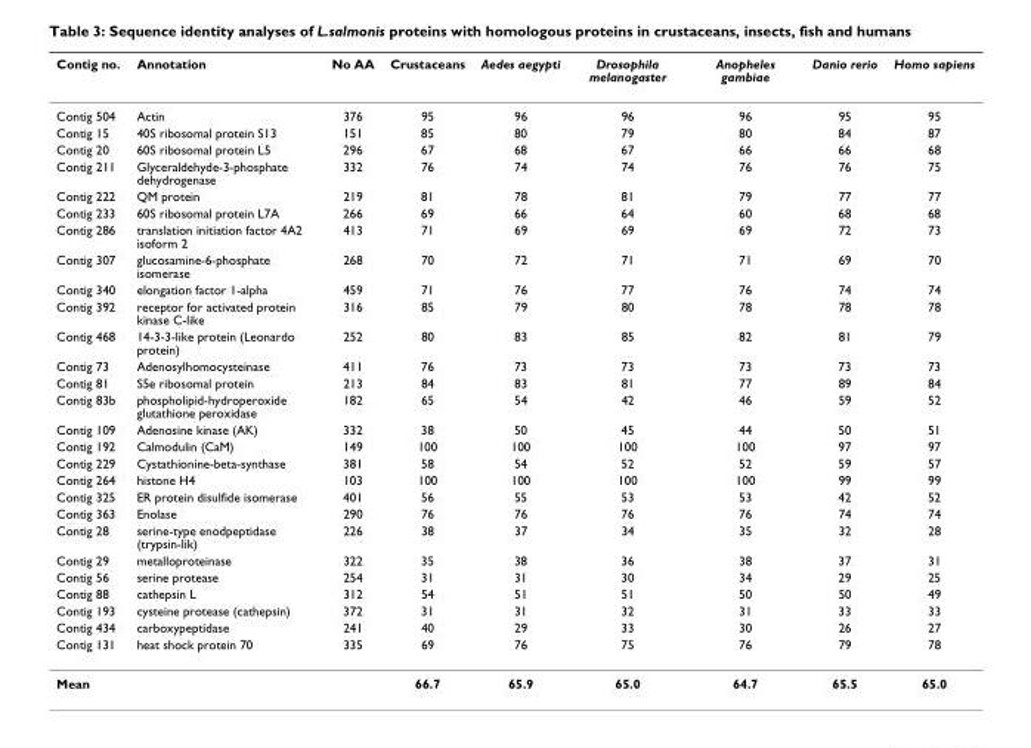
<table><thead><tr><td>Contig no.</td><td>Annotation</td><td>No AA</td><td>Crustaceans</td><td>Aedes aegypti</td><td>Drosophila melanogaster</td><td>Anopheles gambiae</td><td>Danio rerio</td><td>Homo sapiens</td></tr></thead><tbody><tr><td>Contig 504</td><td>Actin</td><td>376</td><td>95</td><td>96</td><td>96</td><td>96</td><td>95</td><td>95</td></tr><tr><td>Contig 15</td><td>40S ribosomal protein S13</td><td>151</td><td>85</td><td>80</td><td>79</td><td>80</td><td>84</td><td>87</td></tr><tr><td>Contig 20</td><td>60S ribosomal protein L5</td><td>296</td><td>67</td><td>68</td><td>67</td><td>66</td><td>66</td><td>68</td></tr><tr><td>Contig 211</td><td>Glyceraldehyde-3-phosphate dehydrogenase</td><td>332</td><td>76</td><td>74</td><td>74</td><td>76</td><td>76</td><td>75</td></tr><tr><td>Contig 222</td><td>QM protein</td><td>219</td><td>81</td><td>78</td><td>81</td><td>79</td><td>77</td><td>77</td></tr><tr><td>Contig 233</td><td>60S ribosomal protein L7A</td><td>266</td><td>69</td><td>66</td><td>64</td><td>60</td><td>68</td><td>68</td></tr><tr><td>Contig 286</td><td>translation initiation factor 4A2 isoform 2</td><td>413</td><td>71</td><td>69</td><td>69</td><td>69</td><td>72</td><td>73</td></tr><tr><td>Contig 307</td><td>glucosamine-6-phosphate isomerase</td><td>268</td><td>70</td><td>72</td><td>71</td><td>71</td><td>69</td><td>70</td></tr><tr><td>Contig 340</td><td>elongation factor 1-alpha</td><td>459</td><td>71</td><td>76</td><td>77</td><td>76</td><td>74</td><td>74</td></tr><tr><td>Contig 392</td><td>receptor for activated protein kinase C-like</td><td>316</td><td>85</td><td>79</td><td>80</td><td>78</td><td>78</td><td>78</td></tr><tr><td>Contig 468</td><td>14-3-3-like protein (Leonardo protein)</td><td>252</td><td>80</td><td>83</td><td>85</td><td>82</td><td>81</td><td>79</td></tr><tr><td>Contig 73</td><td>Adenosylhomocysteinase</td><td>411</td><td>76</td><td>73</td><td>73</td><td>73</td><td>73</td><td>73</td></tr><tr><td>Contig 81</td><td>S5e ribosomal protein</td><td>213</td><td>84</td><td>83</td><td>81</td><td>77</td><td>89</td><td>84</td></tr><tr><td>Contig 83b</td><td>phospholipid-hydroperoxide glutathione peroxidase</td><td>182</td><td>65</td><td>54</td><td>42</td><td>46</td><td>59</td><td>52</td></tr><tr><td>Contig 109</td><td>Adenosine kinase (AK)</td><td>332</td><td>38</td><td>50</td><td>45</td><td>44</td><td>50</td><td>51</td></tr><tr><td>Contig 192</td><td>Calmodulin (CaM)</td><td>149</td><td>100</td><td>100</td><td>100</td><td>100</td><td>97</td><td>97</td></tr><tr><td>Contig 229</td><td>Cystathionine-beta-synthase</td><td>381</td><td>58</td><td>54</td><td>52</td><td>52</td><td>59</td><td>57</td></tr><tr><td>Contig 264</td><td>histone H4</td><td>103</td><td>100</td><td>100</td><td>100</td><td>100</td><td>99</td><td>99</td></tr><tr><td>Contig 325</td><td>ER protein disulfide isomerase</td><td>401</td><td>56</td><td>55</td><td>53</td><td>53</td><td>42</td><td>52</td></tr><tr><td>Contig 363</td><td>Enolase</td><td>290</td><td>76</td><td>76</td><td>76</td><td>76</td><td>74</td><td>74</td></tr><tr><td>Contig 28</td><td>serine-type enodpeptidase (trypsin-lik)</td><td>226</td><td>38</td><td>37</td><td>34</td><td>35</td><td>32</td><td>28</td></tr><tr><td>Contig 29</td><td>metalloproteinase</td><td>322</td><td>35</td><td>38</td><td>36</td><td>38</td><td>37</td><td>31</td></tr><tr><td>Contig 56</td><td>serine protease</td><td>254</td><td>31</td><td>31</td><td>30</td><td>34</td><td>29</td><td>25</td></tr><tr><td>Contig 88</td><td>cathepsin L</td><td>312</td><td>54</td><td>51</td><td>51</td><td>50</td><td>50</td><td>49</td></tr><tr><td>Contig 193</td><td>cysteine protease (cathepsin)</td><td>372</td><td>31</td><td>31</td><td>32</td><td>31</td><td>33</td><td>33</td></tr><tr><td>Contig 434</td><td>carboxypeptidase</td><td>241</td><td>40</td><td>29</td><td>33</td><td>30</td><td>26</td><td>27</td></tr><tr><td>Contig 131</td><td>heat shock protein 70</td><td>335</td><td>69</td><td>76</td><td>75</td><td>76</td><td>79</td><td>78</td></tr><tr><td>Mean</td><td></td><td></td><td>66.7</td><td>65.9</td><td>65.0</td><td>64.7</td><td>65.5</td><td>65.0</td></tr></tbody></table>